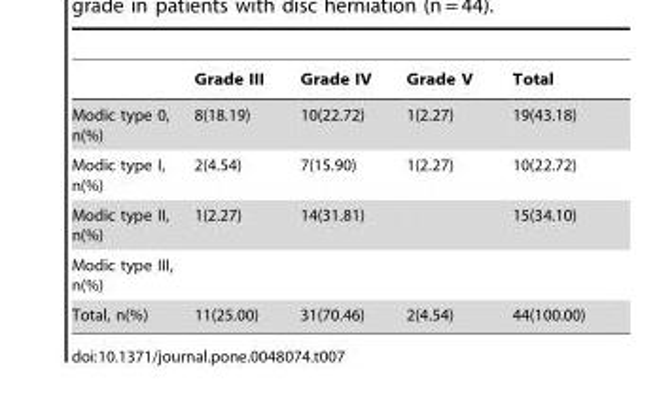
<table><thead><tr><td></td><td>Grade III</td><td>Grade IV</td><td>Grade V</td><td>Total</td></tr></thead><tbody><tr><td>Modic type 0, n(%)</td><td>8(18.19)</td><td>10(22.72)</td><td>1(2.27)</td><td>19(43.18)</td></tr><tr><td>Modic type I, n(%)</td><td>2(4.54)</td><td>7(15.90)</td><td>1(2.27)</td><td>10(22.72)</td></tr><tr><td>Modic type II, n(%)</td><td>1(2.27)</td><td>14(31.81)</td><td></td><td>15(34.10)</td></tr><tr><td colspan="5">Modic type III, n(%)</td></tr><tr><td>Total, n(%)</td><td>11(25.00)</td><td>31(70.46)</td><td>2(4.54)</td><td>44(100.00)</td></tr></tbody></table>